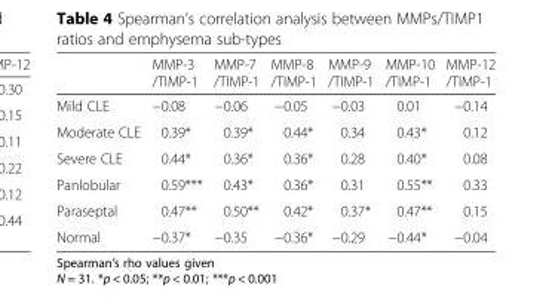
<table><thead><tr><td></td><td>MMP-3 /TIMP-1</td><td>MMP-7 /TIMP-1</td><td>MMP-8 /TIMP-1</td><td>MMP-9 /TIMP-1</td><td>MMP-10 /TIMP-1</td><td>MMP-12 /TIMP-1</td></tr></thead><tbody><tr><td>Mild CLE</td><td>−0.08</td><td>−0.06</td><td>−0.05</td><td>−0.03</td><td>0.01</td><td>−0.14</td></tr><tr><td>Moderate CLE</td><td>0.39*</td><td>0.39*</td><td>0.44*</td><td>0.34</td><td>0.43*</td><td>0.12</td></tr><tr><td>Severe CLE</td><td>0.44*</td><td>0.36*</td><td>0.36*</td><td>0.28</td><td>0.40*</td><td>0.08</td></tr><tr><td>Panlobular</td><td>0.59***</td><td>0.43*</td><td>0.36*</td><td>0.31</td><td>0.55**</td><td>0.33</td></tr><tr><td>Paraseptal</td><td>0.47**</td><td>0.50**</td><td>0.42*</td><td>0.37*</td><td>0.47**</td><td>0.15</td></tr><tr><td>Normal</td><td>−0.37*</td><td>−0.35</td><td>−0.36*</td><td>−0.29</td><td>−0.44*</td><td>−0.04</td></tr></tbody></table>